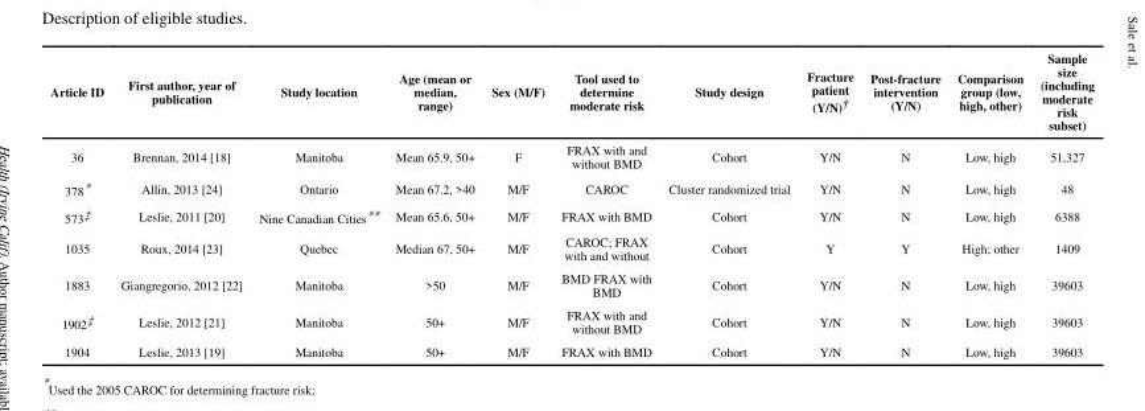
<table><thead><tr><td>Article ID</td><td>First author, year of publication</td><td>Study location</td><td>Age (mean or median, range)</td><td>Sex (M/F)</td><td>Tool used to determine moderate risk</td><td>Study design</td><td>Fracture patient (Y/N)†</td><td>Post-fracture intervention (Y/N)</td><td>Comparison group (low, high, other)</td><td>Sample size (including moderate risk subset)</td></tr></thead><tbody><tr><td>36</td><td>Brennan, 2014 [18]</td><td>Manitoba</td><td>Mean 65.9, 50+</td><td>F</td><td>FRAX with and without BMD</td><td>Cohort</td><td>Y/N</td><td>N</td><td>Low, high</td><td>51,327</td></tr><tr><td>378*</td><td>Allin, 2013 [24]</td><td>Ontario</td><td>Mean 67.2, &gt;40</td><td>M/F</td><td>CAROC</td><td>Cluster randomized trial</td><td>Y/N</td><td>N</td><td>Low, high</td><td>48</td></tr><tr><td>573‡</td><td>Leslie, 2011 [20]</td><td>Nine Canadian Cities**</td><td>Mean 65.6, 50+</td><td>M/F</td><td>FRAX with BMD</td><td>Cohort</td><td>Y/N</td><td>N</td><td>Low, high</td><td>6388</td></tr><tr><td>1035</td><td>Roux, 2014 [23]</td><td>Quebec</td><td>Median 67, 50+</td><td>M/F</td><td>CAROC; FRAX with and without</td><td>Cohort</td><td>Y</td><td>Y</td><td>High; other</td><td>1409</td></tr><tr><td>1883</td><td>Giangregorio, 2012 [22]</td><td>Manitoba</td><td>&gt;50</td><td>M/F</td><td>BMD FRAX with BMD</td><td>Cohort</td><td>Y/N</td><td>N</td><td>Low, high</td><td>39603</td></tr><tr><td>1902‡</td><td>Leslie, 2012 [21]</td><td>Manitoba</td><td>50+</td><td>M/F</td><td>FRAX with and without BMD</td><td>Cohort</td><td>Y/N</td><td>N</td><td>Low, high</td><td>39603</td></tr><tr><td>1904</td><td>Leslie, 2013 [19]</td><td>Manitoba</td><td>50+</td><td>M/F</td><td>FRAX with BMD</td><td>Cohort</td><td>Y/N</td><td>N</td><td>Low, high</td><td>39603</td></tr></tbody></table>